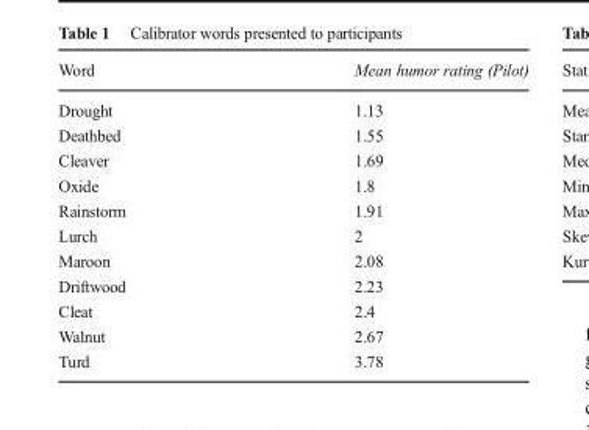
<table><thead><tr><td>Word</td><td>Mean humor rating (Pilot)</td></tr></thead><tbody><tr><td>Drought</td><td>1.13</td></tr><tr><td>Deathbed</td><td>1.55</td></tr><tr><td>Cleaver</td><td>1.69</td></tr><tr><td>Oxide</td><td>1.8</td></tr><tr><td>Rainstorm</td><td>1.91</td></tr><tr><td>Lurch</td><td>2</td></tr><tr><td>Maroon</td><td>2.08</td></tr><tr><td>Driftwood</td><td>2.23</td></tr><tr><td>Cleat</td><td>2.4</td></tr><tr><td>Walnut</td><td>2.67</td></tr><tr><td>Turd</td><td>3.78</td></tr></tbody></table>